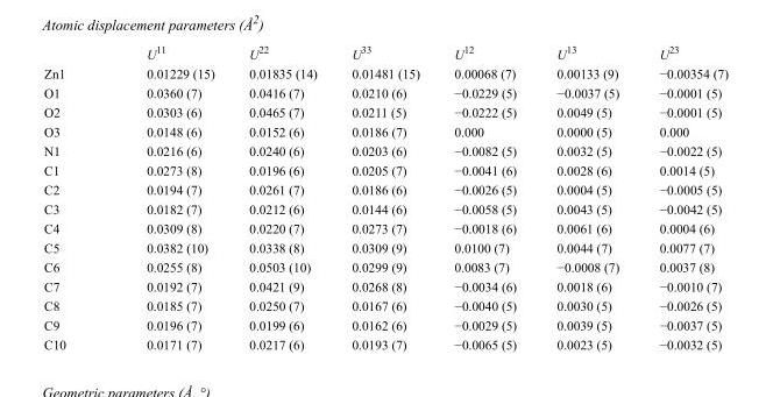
<table><thead><tr><td></td><td>U<sup>11</sup></td><td>U<sup>22</sup></td><td>U<sup>33</sup></td><td>U<sup>12</sup></td><td>U<sup>13</sup></td><td>U<sup>23</sup></td></tr></thead><tbody><tr><td>Zn1</td><td>0.01229 (15)</td><td>0.01835 (14)</td><td>0.01481 (15)</td><td>0.00068 (7)</td><td>0.00133 (9)</td><td>−0.00354 (7)</td></tr><tr><td>O1</td><td>0.0360 (7)</td><td>0.0416 (7)</td><td>0.0210 (6)</td><td>−0.0229 (5)</td><td>−0.0037 (5)</td><td>−0.0001 (5)</td></tr><tr><td>O2</td><td>0.0303 (6)</td><td>0.0465 (7)</td><td>0.0211 (5)</td><td>−0.0222 (5)</td><td>0.0049 (5)</td><td>−0.0001 (5)</td></tr><tr><td>O3</td><td>0.0148 (6)</td><td>0.0152 (6)</td><td>0.0186 (7)</td><td>0.000</td><td>0.0000 (5)</td><td>0.000</td></tr><tr><td>N1</td><td>0.0216 (6)</td><td>0.0240 (6)</td><td>0.0203 (6)</td><td>−0.0082 (5)</td><td>0.0032 (5)</td><td>−0.0022 (5)</td></tr><tr><td>C1</td><td>0.0273 (8)</td><td>0.0196 (6)</td><td>0.0205 (7)</td><td>−0.0041 (6)</td><td>0.0028 (6)</td><td>0.0014 (5)</td></tr><tr><td>C2</td><td>0.0194 (7)</td><td>0.0261 (7)</td><td>0.0186 (6)</td><td>−0.0026 (5)</td><td>0.0004 (5)</td><td>−0.0005 (5)</td></tr><tr><td>C3</td><td>0.0182 (7)</td><td>0.0212 (6)</td><td>0.0144 (6)</td><td>−0.0058 (5)</td><td>0.0043 (5)</td><td>−0.0042 (5)</td></tr><tr><td>C4</td><td>0.0309 (8)</td><td>0.0220 (7)</td><td>0.0273 (7)</td><td>−0.0018 (6)</td><td>0.0061 (6)</td><td>0.0004 (6)</td></tr><tr><td>C5</td><td>0.0382 (10)</td><td>0.0338 (8)</td><td>0.0309 (9)</td><td>0.0100 (7)</td><td>0.0044 (7)</td><td>0.0077 (7)</td></tr><tr><td>C6</td><td>0.0255 (8)</td><td>0.0503 (10)</td><td>0.0299 (9)</td><td>0.0083 (7)</td><td>−0.0008 (7)</td><td>0.0037 (8)</td></tr><tr><td>C7</td><td>0.0192 (7)</td><td>0.0421 (9)</td><td>0.0268 (8)</td><td>−0.0034 (6)</td><td>0.0018 (6)</td><td>−0.0010 (7)</td></tr><tr><td>C8</td><td>0.0185 (7)</td><td>0.0250 (7)</td><td>0.0167 (6)</td><td>−0.0040 (5)</td><td>0.0030 (5)</td><td>−0.0026 (5)</td></tr><tr><td>C9</td><td>0.0196 (7)</td><td>0.0199 (6)</td><td>0.0162 (6)</td><td>−0.0029 (5)</td><td>0.0039 (5)</td><td>−0.0037 (5)</td></tr><tr><td>C10</td><td>0.0171 (7)</td><td>0.0217 (6)</td><td>0.0193 (7)</td><td>−0.0065 (5)</td><td>0.0023 (5)</td><td>−0.0032 (5)</td></tr></tbody></table>